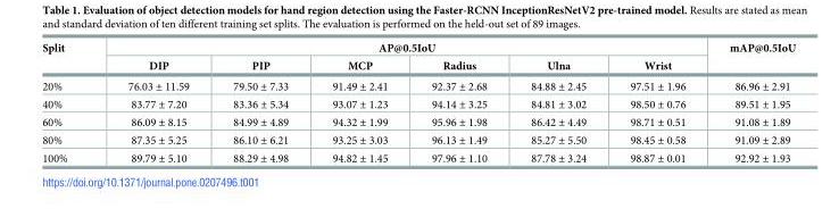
<table><thead><tr><td rowspan="2">Split</td><td colspan="6">AP@0.5IoU</td><td rowspan="2">mAP@0.5IoU</td></tr><tr><td>DIP</td><td>PIP</td><td>MCP</td><td>Radius</td><td>Ulna</td><td>Wrist</td></tr></thead><tbody><tr><td>20%</td><td>76.03 ± 11.59</td><td>79.50 ± 7.33</td><td>91.49 ± 2.41</td><td>92.37 ± 2.68</td><td>84.88 ± 2.45</td><td>97.51 ± 1.96</td><td>86.96 ± 2.91</td></tr><tr><td>40%</td><td>83.77 ± 7.20</td><td>83.36 ± 5.34</td><td>93.07 ± 1.23</td><td>94.14 ± 3.25</td><td>84.81 ± 3.02</td><td>98.50 ± 0.76</td><td>89.51 ± 1.95</td></tr><tr><td>60%</td><td>86.09 ± 8.15</td><td>84.99 ± 4.89</td><td>94.32 ± 1.99</td><td>95.96 ± 1.98</td><td>86.42 ± 4.49</td><td>98.71 ± 0.51</td><td>91.08 ± 1.89</td></tr><tr><td>80%</td><td>87.35 ± 5.25</td><td>86.10 ± 6.21</td><td>93.25 ± 3.03</td><td>96.13 ± 1.49</td><td>85.27 ± 5.50</td><td>98.45 ± 0.58</td><td>91.09 ± 2.89</td></tr><tr><td>100%</td><td>89.79 ± 5.10</td><td>88.29 ± 4.98</td><td>94.82 ± 1.45</td><td>97.96 ± 1.10</td><td>87.78 ± 3.24</td><td>98.87 ± 0.01</td><td>92.92 ± 1.93</td></tr></tbody></table>